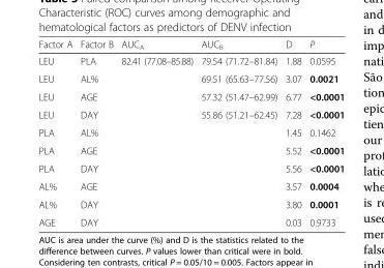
<table><thead><tr><td>Factor A</td><td>Factor B</td><td>AUC<sub>A</sub></td><td>AUC<sub>B</sub></td><td>D</td><td>P</td></tr></thead><tbody><tr><td>LEU</td><td>PLA</td><td>82.41 (77.08–85.88)</td><td>79.54 (71.72–81.84)</td><td>1.88</td><td>0.0595</td></tr><tr><td>LEU</td><td>AL%</td><td></td><td>69.51 (65.63–77.56)</td><td>3.07</td><td>0.0021</td></tr><tr><td>LEU</td><td>AGE</td><td></td><td>57.32 (51.47–62.99)</td><td>6.77</td><td>&lt;0.0001</td></tr><tr><td>LEU</td><td>DAY</td><td></td><td>55.86 (51.21–62.45)</td><td>7.28</td><td>&lt;0.0001</td></tr><tr><td>PLA</td><td>AL%</td><td></td><td></td><td>1.45</td><td>0.1462</td></tr><tr><td>PLA</td><td>AGE</td><td></td><td></td><td>5.52</td><td>&lt;0.0001</td></tr><tr><td>PLA</td><td>DAY</td><td></td><td></td><td>5.56</td><td>&lt;0.0001</td></tr><tr><td>AL%</td><td>AGE</td><td></td><td></td><td>3.57</td><td>0.0004</td></tr><tr><td>AL%</td><td>DAY</td><td></td><td></td><td>3.80</td><td>0.0001</td></tr><tr><td>AGE</td><td>DAY</td><td></td><td></td><td>0.03</td><td>0.9733</td></tr></tbody></table>